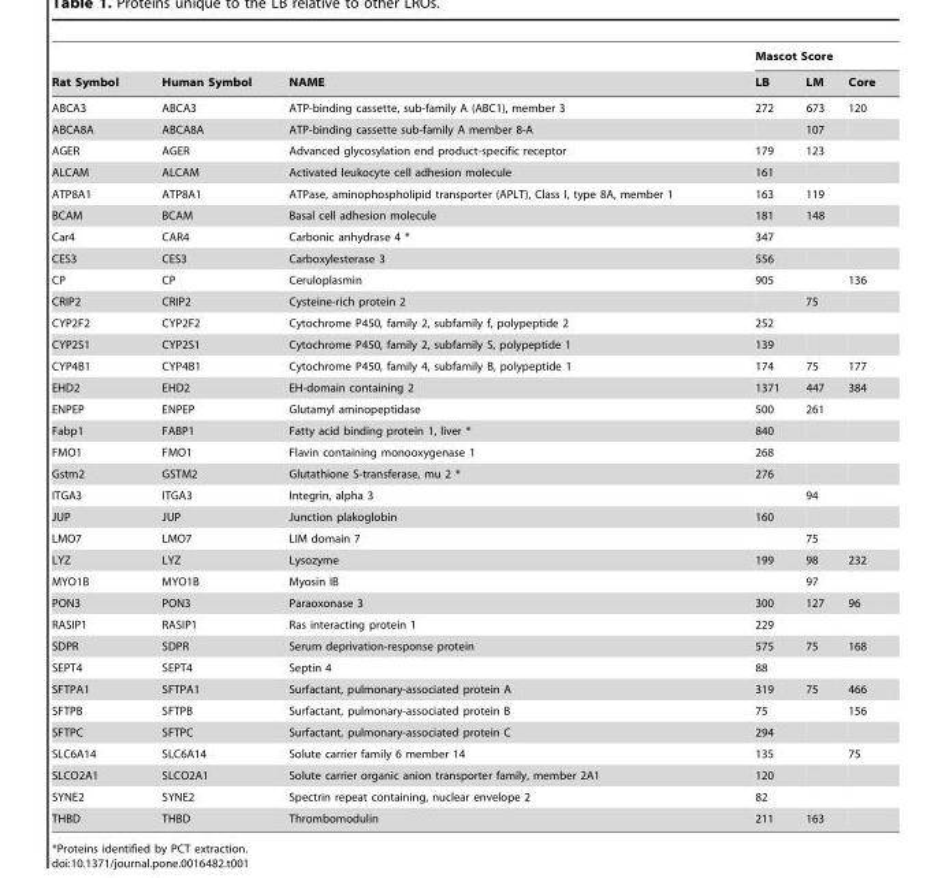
<table><thead><tr><td rowspan="2">Rat Symbol</td><td rowspan="2">Human Symbol</td><td rowspan="2">NAME</td><td colspan="3">Mascot Score</td></tr><tr><td>LB</td><td>LM</td><td>Core</td></tr></thead><tbody><tr><td>ABCA3</td><td>ABCA3</td><td>ATP-binding cassette, sub-family A (ABC1), member 3</td><td>272</td><td>673</td><td>120</td></tr><tr><td>ABCA8A</td><td>ABCA8A</td><td>ATP-binding cassette sub-family A member 8-A</td><td></td><td>107</td><td></td></tr><tr><td>AGER</td><td>AGER</td><td>Advanced glycosylation end product-specific receptor</td><td>179</td><td>123</td><td></td></tr><tr><td>ALCAM</td><td>ALCAM</td><td>Activated leukocyte cell adhesion molecule</td><td>161</td><td></td><td></td></tr><tr><td>ATP8A1</td><td>ATP8A1</td><td>ATPase, aminophospholipid transporter (APLT), Class I, type 8A, member 1</td><td>163</td><td>119</td><td></td></tr><tr><td>BCAM</td><td>BCAM</td><td>Basal cell adhesion molecule</td><td>181</td><td>148</td><td></td></tr><tr><td>Car4</td><td>CAR4</td><td>Carbonic anhydrase 4 *</td><td>347</td><td></td><td></td></tr><tr><td>CES3</td><td>CES3</td><td>Carboxylesterase 3</td><td>556</td><td></td><td></td></tr><tr><td>CP</td><td>CP</td><td>Ceruloplasmin</td><td>905</td><td></td><td>136</td></tr><tr><td>CRIP2</td><td>CRIP2</td><td>Cysteine-rich protein 2</td><td></td><td>75</td><td></td></tr><tr><td>CYP2F2</td><td>CYP2F2</td><td>Cytochrome P450, family 2, subfamily f, polypeptide 2</td><td>252</td><td></td><td></td></tr><tr><td>CYP2S1</td><td>CYP2S1</td><td>Cytochrome P450, family 2, subfamily S, polypeptide 1</td><td>139</td><td></td><td></td></tr><tr><td>CYP4B1</td><td>CYP4B1</td><td>Cytochrome P450, family 4, subfamily B, polypeptide 1</td><td>174</td><td>75</td><td>177</td></tr><tr><td>EHD2</td><td>EHD2</td><td>EH-domain containing 2</td><td>1371</td><td>447</td><td>384</td></tr><tr><td>ENPEP</td><td>ENPEP</td><td>Glutamyl aminopeptidase</td><td>500</td><td>261</td><td></td></tr><tr><td>Fabp1</td><td>FABP1</td><td>Fatty acid binding protein 1, liver *</td><td>840</td><td></td><td></td></tr><tr><td>FMO1</td><td>FMO1</td><td>Flavin containing monooxygenase 1</td><td>268</td><td></td><td></td></tr><tr><td>Gstm2</td><td>GSTM2</td><td>Glutathione S-transferase, mu 2 *</td><td>276</td><td></td><td></td></tr><tr><td>ITGA3</td><td>ITGA3</td><td>Integrin, alpha 3</td><td></td><td>94</td><td></td></tr><tr><td>JUP</td><td>JUP</td><td>Junction plakoglobin</td><td>160</td><td></td><td></td></tr><tr><td>LMO7</td><td>LMO7</td><td>LIM domain 7</td><td></td><td>75</td><td></td></tr><tr><td>LYZ</td><td>LYZ</td><td>Lysozyme</td><td>199</td><td>98</td><td>232</td></tr><tr><td>MYO1B</td><td>MYO1B</td><td>Myosin IB</td><td></td><td>97</td><td></td></tr><tr><td>PON3</td><td>PON3</td><td>Paraoxonase 3</td><td>300</td><td>127</td><td>96</td></tr><tr><td>RASIP1</td><td>RASIP1</td><td>Ras interacting protein 1</td><td>229</td><td></td><td></td></tr><tr><td>SDPR</td><td>SDPR</td><td>Serum deprivation-response protein</td><td>575</td><td>75</td><td>168</td></tr><tr><td>SEPT4</td><td>SEPT4</td><td>Septin 4</td><td>88</td><td></td><td></td></tr><tr><td>SFTPA1</td><td>SFTPA1</td><td>Surfactant, pulmonary-associated protein A</td><td>319</td><td>75</td><td>466</td></tr><tr><td>SFTPB</td><td>SFTPB</td><td>Surfactant, pulmonary-associated protein B</td><td>75</td><td></td><td>156</td></tr><tr><td>SFTPC</td><td>SFTPC</td><td>Surfactant, pulmonary-associated protein C</td><td>294</td><td></td><td></td></tr><tr><td>SLC6A14</td><td>SLC6A14</td><td>Solute carrier family 6 member 14</td><td>135</td><td></td><td>75</td></tr><tr><td>SLCO2A1</td><td>SLCO2A1</td><td>Solute carrier organic anion transporter family, member 2A1</td><td>120</td><td></td><td></td></tr><tr><td>SYNE2</td><td>SYNE2</td><td>Spectrin repeat containing, nuclear envelope 2</td><td>82</td><td></td><td></td></tr><tr><td>THBD</td><td>THBD</td><td>Thrombomodulin</td><td>211</td><td>163</td><td></td></tr></tbody></table>